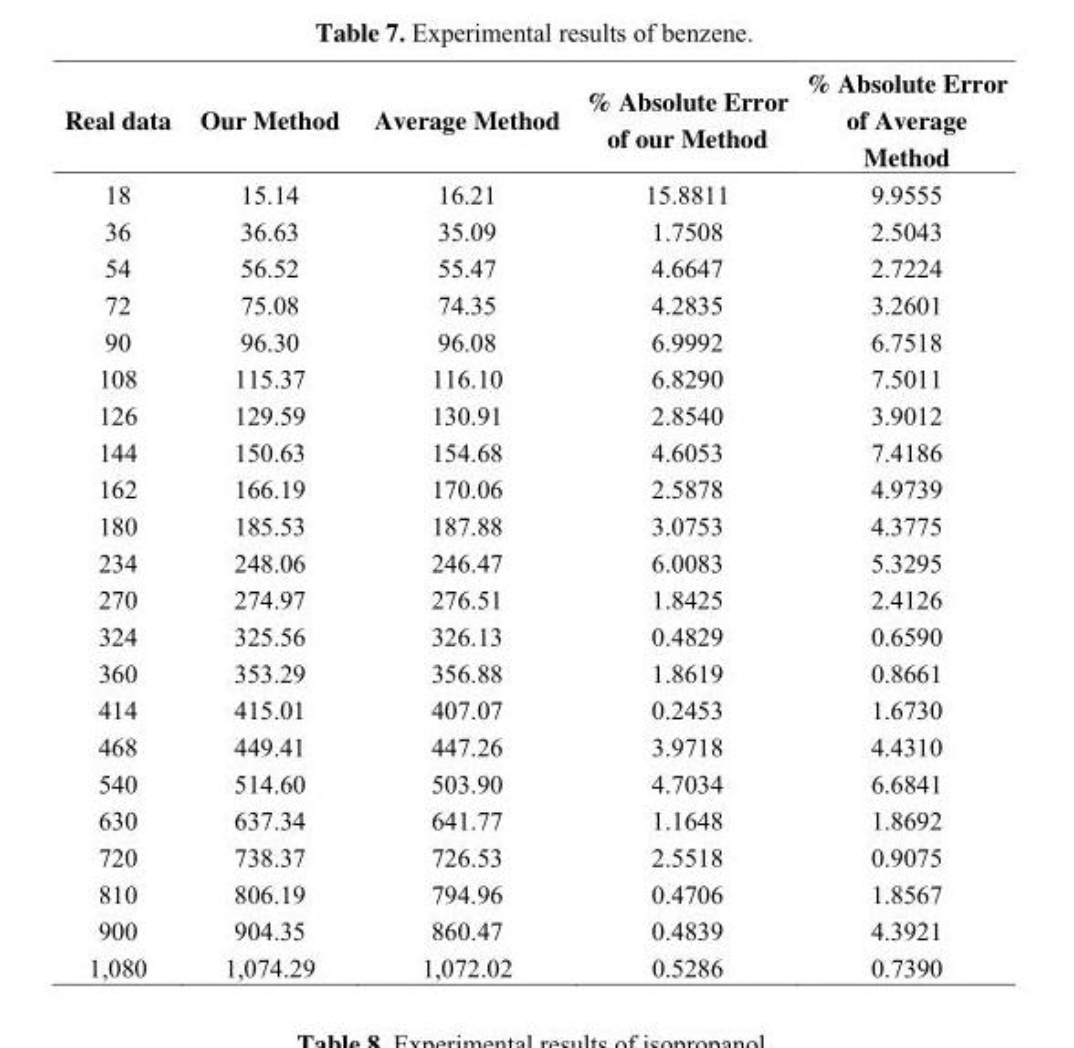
<table><thead><tr><td>Real data</td><td>Our Method</td><td>Average Method</td><td>% Absolute Error of our Method</td><td>% Absolute Error of Average Method</td></tr></thead><tbody><tr><td>18</td><td>15.14</td><td>16.21</td><td>15.8811</td><td>9.9555</td></tr><tr><td>36</td><td>36.63</td><td>35.09</td><td>1.7508</td><td>2.5043</td></tr><tr><td>54</td><td>56.52</td><td>55.47</td><td>4.6647</td><td>2.7224</td></tr><tr><td>72</td><td>75.08</td><td>74.35</td><td>4.2835</td><td>3.2601</td></tr><tr><td>90</td><td>96.30</td><td>96.08</td><td>6.9992</td><td>6.7518</td></tr><tr><td>108</td><td>115.37</td><td>116.10</td><td>6.8290</td><td>7.5011</td></tr><tr><td>126</td><td>129.59</td><td>130.91</td><td>2.8540</td><td>3.9012</td></tr><tr><td>144</td><td>150.63</td><td>154.68</td><td>4.6053</td><td>7.4186</td></tr><tr><td>162</td><td>166.19</td><td>170.06</td><td>2.5878</td><td>4.9739</td></tr><tr><td>180</td><td>185.53</td><td>187.88</td><td>3.0753</td><td>4.3775</td></tr><tr><td>234</td><td>248.06</td><td>246.47</td><td>6.0083</td><td>5.3295</td></tr><tr><td>270</td><td>274.97</td><td>276.51</td><td>1.8425</td><td>2.4126</td></tr><tr><td>324</td><td>325.56</td><td>326.13</td><td>0.4829</td><td>0.6590</td></tr><tr><td>360</td><td>353.29</td><td>356.88</td><td>1.8619</td><td>0.8661</td></tr><tr><td>414</td><td>415.01</td><td>407.07</td><td>0.2453</td><td>1.6730</td></tr><tr><td>468</td><td>449.41</td><td>447.26</td><td>3.9718</td><td>4.4310</td></tr><tr><td>540</td><td>514.60</td><td>503.90</td><td>4.7034</td><td>6.6841</td></tr><tr><td>630</td><td>637.34</td><td>641.77</td><td>1.1648</td><td>1.8692</td></tr><tr><td>720</td><td>738.37</td><td>726.53</td><td>2.5518</td><td>0.9075</td></tr><tr><td>810</td><td>806.19</td><td>794.96</td><td>0.4706</td><td>1.8567</td></tr><tr><td>900</td><td>904.35</td><td>860.47</td><td>0.4839</td><td>4.3921</td></tr><tr><td>1,080</td><td>1,074.29</td><td>1,072.02</td><td>0.5286</td><td>0.7390</td></tr></tbody></table>